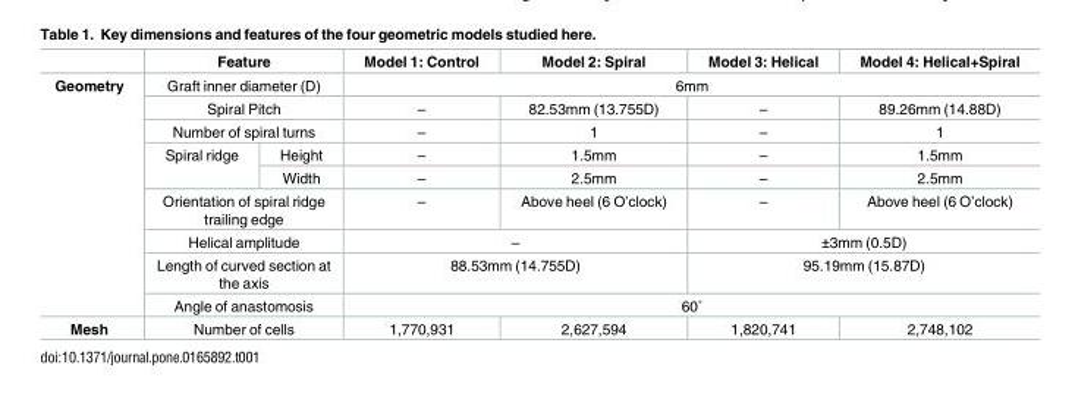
<table><thead><tr><td></td><td colspan="2">Feature</td><td>Model 1: Control</td><td>Model 2: Spiral</td><td>Model 3: Helical</td><td>Model 4: Helical+Spiral</td></tr></thead><tbody><tr><td rowspan="9">Geometry</td><td colspan="2">Graft inner diameter (D)</td><td colspan="4">6mm</td></tr><tr><td colspan="2">Spiral Pitch</td><td>–</td><td>82.53mm (13.755D)</td><td>–</td><td>89.26mm (14.88D)</td></tr><tr><td colspan="2">Number of spiral turns</td><td>–</td><td>1</td><td>–</td><td>1</td></tr><tr><td rowspan="2">Spiral ridge</td><td>Height</td><td>–</td><td>1.5mm</td><td>–</td><td>1.5mm</td></tr><tr><td>Width</td><td>–</td><td>2.5mm</td><td>–</td><td>2.5mm</td></tr><tr><td colspan="2">Orientation of spiral ridge trailing edge</td><td>–</td><td>Above heel (6 O’clock)</td><td>–</td><td>Above heel (6 O’clock)</td></tr><tr><td colspan="2">Helical amplitude</td><td colspan="2">–</td><td colspan="2">±3mm (0.5D)</td></tr><tr><td colspan="2">Length of curved section at the axis</td><td colspan="2">88.53mm (14.755D)</td><td colspan="2">95.19mm (15.87D)</td></tr><tr><td colspan="2">Angle of anastomosis</td><td colspan="4">60˚</td></tr><tr><td>Mesh</td><td colspan="2">Number of cells</td><td>1,770,931</td><td>2,627,594</td><td>1,820,741</td><td>2,748,102</td></tr></tbody></table>